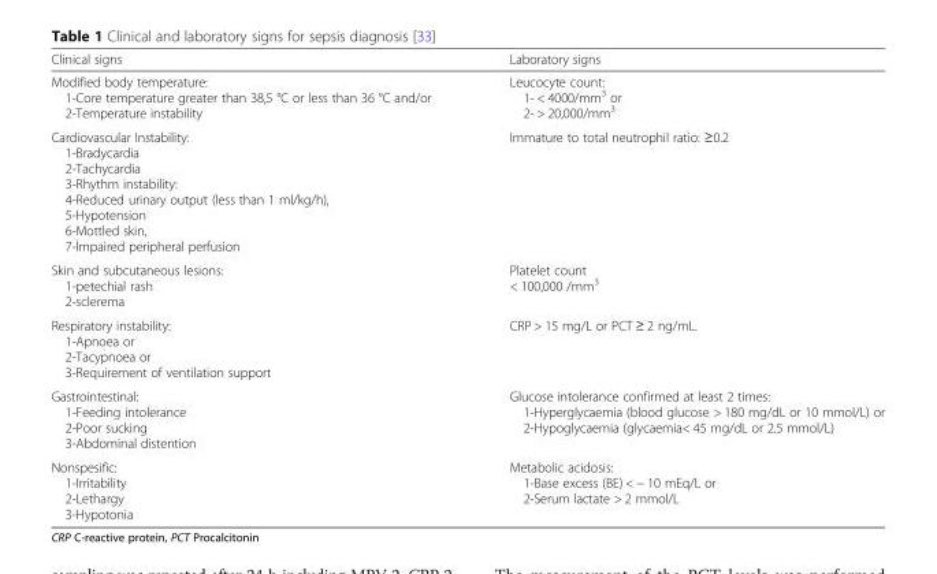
<table><thead><tr><td>Clinical signs</td><td>Laboratory signs</td></tr></thead><tbody><tr><td>Modified body temperature: 1-Core temperature greater than 38,5 °C or less than 36 °C and/or 2-Temperature instability</td><td>Leucocyte count: 1- &lt; 4000/mm<sup>3</sup> or 2- &gt; 20,000/mm<sup>3</sup></td></tr><tr><td>Cardiovascular Instability: 1-Bradycardia 2-Tachycardia 3-Rhythm instability: 4-Reduced urinary output (less than 1 ml/kg/h), 5-Hypotension 6-Mottled skin, 7-İmpaired peripheral perfusion</td><td>Immature to total neutrophil ratio: ≥0.2</td></tr><tr><td>Skin and subcutaneous lesions: 1-petechial rash 2-sclerema</td><td>Platelet count &lt; 100,000 /mm<sup>3</sup></td></tr><tr><td>Respiratory instability: 1-Apnoea or 2-Tacypnoea or 3-Requirement of ventilation support</td><td>CRP &gt; 15 mg/L or PCT ≥ 2 ng/mL.</td></tr><tr><td>Gastrointestinal: 1-Feeding intolerance 2-Poor sucking 3-Abdominal distention</td><td>Glucose intolerance confirmed at least 2 times: 1-Hyperglycaemia (blood glucose &gt; 180 mg/dL or 10 mmol/L) or 2-Hypoglycaemia (glycaemia&lt; 45 mg/dL or 2.5 mmol/L)</td></tr><tr><td>Nonspesific: 1-Irritability 2-Lethargy 3-Hypotonia</td><td>Metabolic acidosis: 1-Base excess (BE) &lt; − 10 mEq/L or 2-Serum lactate &gt; 2 mmol/L</td></tr></tbody></table>